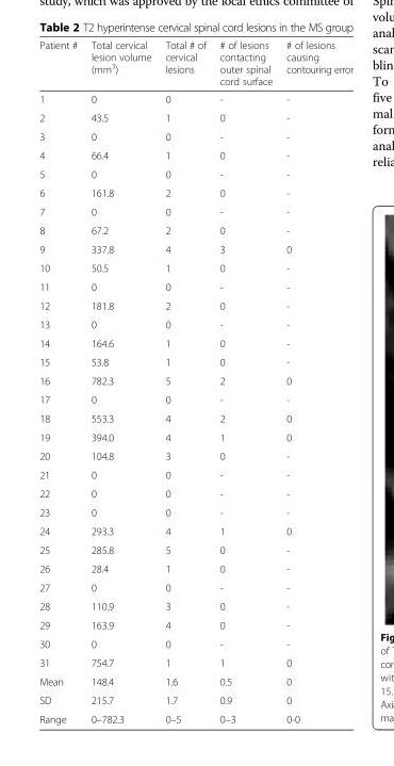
<table><thead><tr><td>Patient #</td><td>Total cervical lesion volume (mm<sup>3</sup>)</td><td>Total # of cervical lesions</td><td># of lesions contacting outer spinal cord surface</td><td># of lesions causing contouring error</td></tr></thead><tbody><tr><td>1</td><td>0</td><td>0</td><td>-</td><td>-</td></tr><tr><td>2</td><td>43.5</td><td>1</td><td>0</td><td>-</td></tr><tr><td>3</td><td>0</td><td>0</td><td>-</td><td>-</td></tr><tr><td>4</td><td>66.4</td><td>1</td><td>0</td><td>-</td></tr><tr><td>5</td><td>0</td><td>0</td><td>-</td><td>-</td></tr><tr><td>6</td><td>161.8</td><td>2</td><td>0</td><td>-</td></tr><tr><td>7</td><td>0</td><td>0</td><td>-</td><td>-</td></tr><tr><td>8</td><td>67.2</td><td>2</td><td>0</td><td>-</td></tr><tr><td>9</td><td>337.8</td><td>4</td><td>3</td><td>0</td></tr><tr><td>10</td><td>50.5</td><td>1</td><td>0</td><td>-</td></tr><tr><td>11</td><td>0</td><td>0</td><td>-</td><td>-</td></tr><tr><td>12</td><td>181.8</td><td>2</td><td>0</td><td>-</td></tr><tr><td>13</td><td>0</td><td>0</td><td>-</td><td>-</td></tr><tr><td>14</td><td>164.6</td><td>1</td><td>0</td><td>-</td></tr><tr><td>15</td><td>53.8</td><td>1</td><td>0</td><td>-</td></tr><tr><td>16</td><td>782.3</td><td>5</td><td>2</td><td>0</td></tr><tr><td>17</td><td>0</td><td>0</td><td>-</td><td>-</td></tr><tr><td>18</td><td>553.3</td><td>4</td><td>2</td><td>0</td></tr><tr><td>19</td><td>394.0</td><td>4</td><td>1</td><td>0</td></tr><tr><td>20</td><td>104.8</td><td>3</td><td>0</td><td>-</td></tr><tr><td>21</td><td>0</td><td>0</td><td>-</td><td>-</td></tr><tr><td>22</td><td>0</td><td>0</td><td>-</td><td>-</td></tr><tr><td>23</td><td>0</td><td>0</td><td>-</td><td>-</td></tr><tr><td>24</td><td>293.3</td><td>4</td><td>1</td><td>0</td></tr><tr><td>25</td><td>285.8</td><td>5</td><td>0</td><td>-</td></tr><tr><td>26</td><td>28.4</td><td>1</td><td>0</td><td>-</td></tr><tr><td>27</td><td>0</td><td>0</td><td>-</td><td>-</td></tr><tr><td>28</td><td>110.9</td><td>3</td><td>0</td><td>-</td></tr><tr><td>29</td><td>163.9</td><td>4</td><td>0</td><td>-</td></tr><tr><td>30</td><td>0</td><td>0</td><td>-</td><td>-</td></tr><tr><td>31</td><td>754.7</td><td>1</td><td>1</td><td>0</td></tr><tr><td>Mean</td><td>148.4</td><td>1.6</td><td>0.5</td><td>0</td></tr><tr><td>SD</td><td>215.7</td><td>1.7</td><td>0.9</td><td>0</td></tr><tr><td>Range</td><td>0–782.3</td><td>0–5</td><td>0–3</td><td>0-0</td></tr></tbody></table>